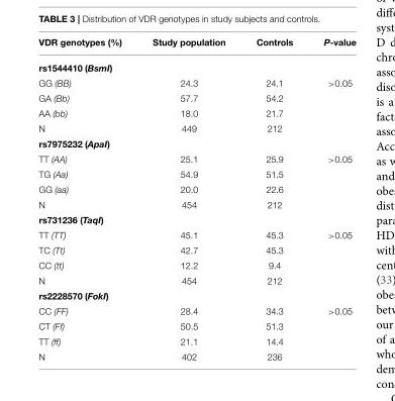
<table><thead><tr><td>VDR genotypes (%)</td><td>Study population</td><td>Controls</td><td>P-value</td></tr></thead><tbody><tr><td colspan="4">rs1544410 (BsmI)</td></tr><tr><td>GG (BB)</td><td>24.3</td><td>24.1</td><td>&gt;0.05</td></tr><tr><td>GA (Bb)</td><td>57.7</td><td>54.2</td><td></td></tr><tr><td>AA (bb)</td><td>18.0</td><td>21.7</td><td></td></tr><tr><td>N</td><td>449</td><td>212</td><td></td></tr><tr><td colspan="4">rs7975232 (ApaI)</td></tr><tr><td>TT (AA)</td><td>25.1</td><td>25.9</td><td>&gt;0.05</td></tr><tr><td>TG (Aa)</td><td>54.9</td><td>51.5</td><td></td></tr><tr><td>GG (aa)</td><td>20.0</td><td>22.6</td><td></td></tr><tr><td>N</td><td>454</td><td>212</td><td></td></tr><tr><td colspan="4">rs731236 (TaqI)</td></tr><tr><td>TT (TT)</td><td>45.1</td><td>45.3</td><td>&gt;0.05</td></tr><tr><td>TC (Tt)</td><td>42.7</td><td>45.3</td><td></td></tr><tr><td>CC (tt)</td><td>12.2</td><td>9.4</td><td></td></tr><tr><td>N</td><td>454</td><td>212</td><td></td></tr><tr><td colspan="4">rs2228570 (FokI)</td></tr><tr><td>CC (FF)</td><td>28.4</td><td>34.3</td><td>&gt;0.05</td></tr><tr><td>CT (Ff)</td><td>50.5</td><td>51.3</td><td></td></tr><tr><td>TT (ff)</td><td>21.1</td><td>14.4</td><td></td></tr><tr><td>N</td><td>402</td><td>236</td><td></td></tr></tbody></table>